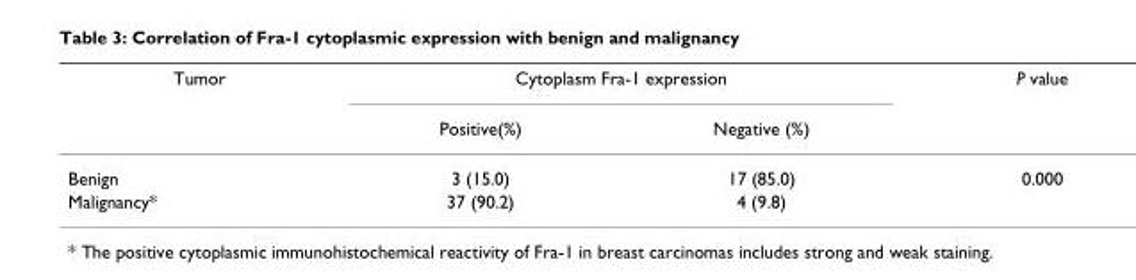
<table><thead><tr><td rowspan="2">Tumor</td><td colspan="2">Cytoplasm Fra-1 expression</td><td rowspan="2">P value</td></tr><tr><td>Positive(%)</td><td>Negative (%)</td></tr></thead><tbody><tr><td>Benign</td><td>3 (15.0)</td><td>17 (85.0)</td><td>0.000</td></tr><tr><td>Malignancy*</td><td>37 (90.2)</td><td>4 (9.8)</td><td></td></tr></tbody></table>